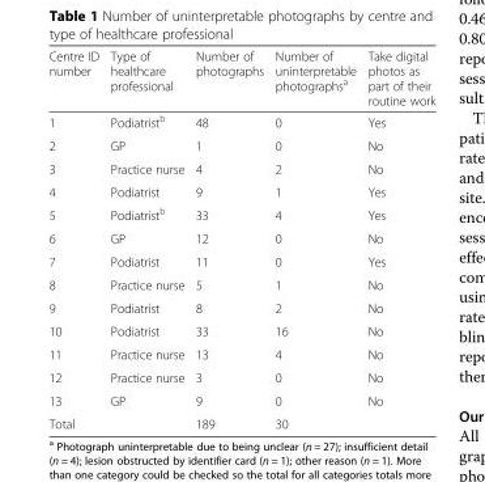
<table><thead><tr><td>Centre ID number</td><td>Type of healthcare professional</td><td>Number of photographs</td><td>Number of uninterpretable photographs<sup>a</sup></td><td>Take digital photos as part of their routine work</td></tr></thead><tbody><tr><td>1</td><td>Podiatrist<sup>b</sup></td><td>48</td><td>0</td><td>Yes</td></tr><tr><td>2</td><td>GP</td><td>1</td><td>0</td><td>No</td></tr><tr><td>3</td><td>Practice nurse</td><td>4</td><td>2</td><td>No</td></tr><tr><td>4</td><td>Podiatrist</td><td>9</td><td>1</td><td>Yes</td></tr><tr><td>5</td><td>Podiatrist<sup>b</sup></td><td>33</td><td>4</td><td>Yes</td></tr><tr><td>6</td><td>GP</td><td>12</td><td>0</td><td>No</td></tr><tr><td>7</td><td>Podiatrist</td><td>11</td><td>0</td><td>Yes</td></tr><tr><td>8</td><td>Practice nurse</td><td>5</td><td>1</td><td>No</td></tr><tr><td>9</td><td>Podiatrist</td><td>8</td><td>2</td><td>No</td></tr><tr><td>10</td><td>Podiatrist</td><td>33</td><td>16</td><td>No</td></tr><tr><td>11</td><td>Practice nurse</td><td>13</td><td>4</td><td>No</td></tr><tr><td>12</td><td>Practice nurse</td><td>3</td><td>0</td><td>No</td></tr><tr><td>13</td><td>GP</td><td>9</td><td>0</td><td>No</td></tr><tr><td>Total</td><td></td><td>189</td><td>30</td><td></td></tr></tbody></table>